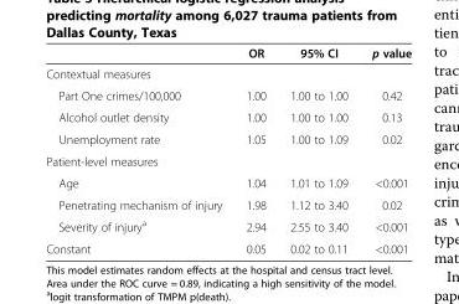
<table><thead><tr><td></td><td>OR</td><td>95% CI</td><td>p value</td></tr></thead><tbody><tr><td colspan="4">Contextual measures</td></tr><tr><td>Part One crimes/100,000</td><td>1.00</td><td>1.00 to 1.00</td><td>0.42</td></tr><tr><td>Alcohol outlet density</td><td>1.00</td><td>1.00 to 1.00</td><td>0.13</td></tr><tr><td>Unemployment rate</td><td>1.05</td><td>1.00 to 1.09</td><td>0.02</td></tr><tr><td colspan="4">Patient-level measures</td></tr><tr><td>Age</td><td>1.04</td><td>1.01 to 1.09</td><td>&lt;0.001</td></tr><tr><td>Penetrating mechanism of injury</td><td>1.98</td><td>1.12 to 3.40</td><td>0.02</td></tr><tr><td>Severity of injury<sup>a</sup></td><td>2.94</td><td>2.55 to 3.40</td><td>&lt;0.001</td></tr><tr><td>Constant</td><td>0.05</td><td>0.02 to 0.11</td><td>&lt;0.001</td></tr></tbody></table>